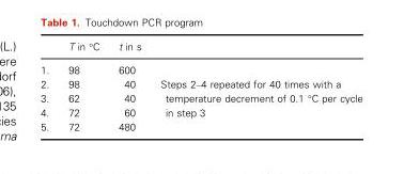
<table><thead><tr><td></td><td>T in °C</td><td>t in s</td><td></td></tr></thead><tbody><tr><td>1.</td><td>98</td><td>600</td><td></td></tr><tr><td>2.</td><td>98</td><td>40</td><td rowspan="3">Steps 2–4 repeated for 40 times with a temperature decrement of 0.1 °C per cycle in step 3</td></tr><tr><td>3.</td><td>62</td><td>40</td></tr><tr><td>4.</td><td>72</td><td>60</td></tr><tr><td>5.</td><td>72</td><td>480</td><td></td></tr></tbody></table>